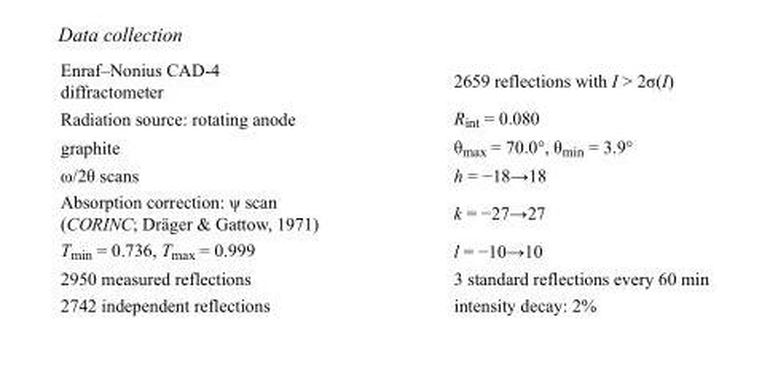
<table><tbody><tr><td>Enraf–Nonius CAD-4 diffractometer</td><td>2659 reflections with I &gt; 2σ(I)</td></tr><tr><td>Radiation source: rotating anode</td><td>R<sub>int</sub> = 0.080</td></tr><tr><td>graphite</td><td>θ<sub>max</sub> = 70.0°, θ<sub>min</sub> = 3.9°</td></tr><tr><td>ω/2θ scans</td><td>h = −18→18</td></tr><tr><td>Absorption correction: ψ scan (CORINC; Dräger &amp; Gattow, 1971)</td><td>k = −27→27</td></tr><tr><td>T<sub>min</sub> = 0.736, T<sub>max</sub> = 0.999</td><td>l = −10→10</td></tr><tr><td>2950 measured reflections</td><td>3 standard reflections every 60 min</td></tr><tr><td>2742 independent reflections</td><td>intensity decay: 2%</td></tr></tbody></table>